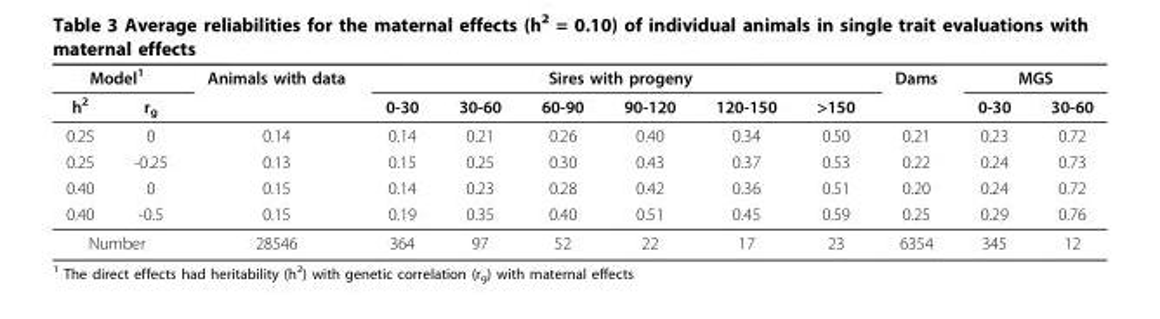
<table><thead><tr><td colspan="2">Model<sup>1</sup></td><td rowspan="2">Animals with data</td><td colspan="6">Sires with progeny</td><td rowspan="2">Dams</td><td colspan="2">MGS</td></tr><tr><td>h<sup>2</sup></td><td>r<sub>g</sub></td><td>0-30</td><td>30-60</td><td>60-90</td><td>90-120</td><td>120-150</td><td>&gt;150</td><td>0-30</td><td>30-60</td></tr></thead><tbody><tr><td>0.25</td><td>0</td><td>0.14</td><td>0.14</td><td>0.21</td><td>0.26</td><td>0.40</td><td>0.34</td><td>0.50</td><td>0.21</td><td>0.23</td><td>0.72</td></tr><tr><td>0.25</td><td>-0.25</td><td>0.13</td><td>0.15</td><td>0.25</td><td>0.30</td><td>0.43</td><td>0.37</td><td>0.53</td><td>0.22</td><td>0.24</td><td>0.73</td></tr><tr><td>0.40</td><td>0</td><td>0.15</td><td>0.14</td><td>0.23</td><td>0.28</td><td>0.42</td><td>0.36</td><td>0.51</td><td>0.20</td><td>0.24</td><td>0.72</td></tr><tr><td>0.40</td><td>-0.5</td><td>0.15</td><td>0.19</td><td>0.35</td><td>0.40</td><td>0.51</td><td>0.45</td><td>0.59</td><td>0.25</td><td>0.29</td><td>0.76</td></tr><tr><td colspan="2">Number</td><td>28546</td><td>364</td><td>97</td><td>52</td><td>22</td><td>17</td><td>23</td><td>6354</td><td>345</td><td>12</td></tr></tbody></table>